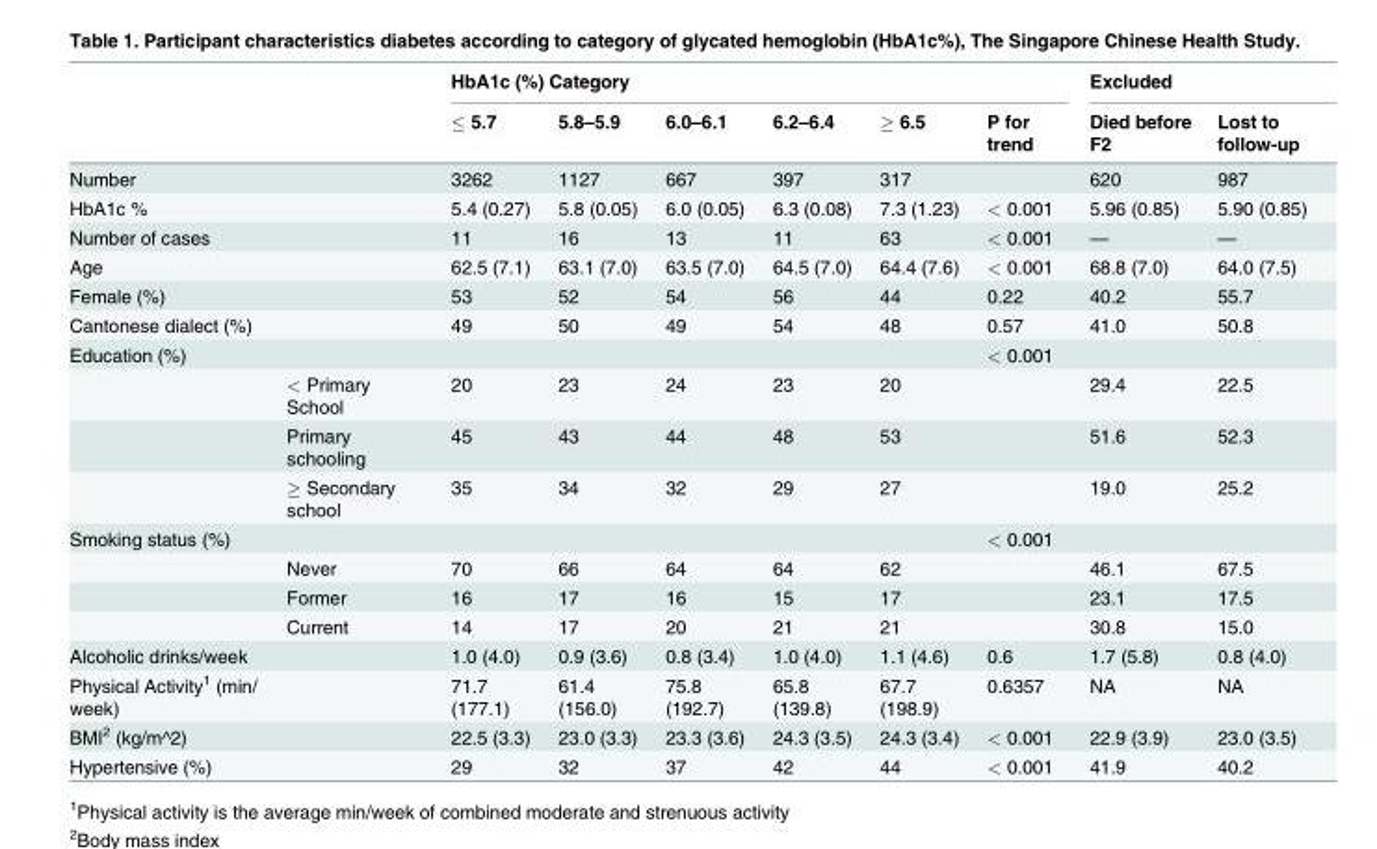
<table><thead><tr><td rowspan="2"></td><td rowspan="2"></td><td colspan="6">HbA1c (%) Category</td><td colspan="2">Excluded</td></tr><tr><td>≤ 5.7</td><td>5.8–5.9</td><td>6.0–6.1</td><td>6.2–6.4</td><td>≥ 6.5</td><td>P for trend</td><td>Died before F2</td><td>Lost to follow-up</td></tr></thead><tbody><tr><td>Number</td><td></td><td>3262</td><td>1127</td><td>667</td><td>397</td><td>317</td><td></td><td>620</td><td>987</td></tr><tr><td>HbA1c %</td><td></td><td>5.4 (0.27)</td><td>5.8 (0.05)</td><td>6.0 (0.05)</td><td>6.3 (0.08)</td><td>7.3 (1.23)</td><td>&lt; 0.001</td><td>5.96 (0.85)</td><td>5.90 (0.85)</td></tr><tr><td>Number of cases</td><td></td><td>11</td><td>16</td><td>13</td><td>11</td><td>63</td><td>&lt; 0.001</td><td>—</td><td>—</td></tr><tr><td>Age</td><td></td><td>62.5 (7.1)</td><td>63.1 (7.0)</td><td>63.5 (7.0)</td><td>64.5 (7.0)</td><td>64.4 (7.6)</td><td>&lt; 0.001</td><td>68.8 (7.0)</td><td>64.0 (7.5)</td></tr><tr><td>Female (%)</td><td></td><td>53</td><td>52</td><td>54</td><td>56</td><td>44</td><td>0.22</td><td>40.2</td><td>55.7</td></tr><tr><td>Cantonese dialect (%)</td><td></td><td>49</td><td>50</td><td>49</td><td>54</td><td>48</td><td>0.57</td><td>41.0</td><td>50.8</td></tr><tr><td rowspan="4">Education (%)</td><td></td><td></td><td></td><td></td><td></td><td></td><td>&lt; 0.001</td><td></td><td></td></tr><tr><td>&lt; Primary School</td><td>20</td><td>23</td><td>24</td><td>23</td><td>20</td><td></td><td>29.4</td><td>22.5</td></tr><tr><td>Primary schooling</td><td>45</td><td>43</td><td>44</td><td>48</td><td>53</td><td></td><td>51.6</td><td>52.3</td></tr><tr><td>≥ Secondary school</td><td>35</td><td>34</td><td>32</td><td>29</td><td>27</td><td></td><td>19.0</td><td>25.2</td></tr><tr><td rowspan="4">Smoking status (%)</td><td></td><td></td><td></td><td></td><td></td><td></td><td>&lt; 0.001</td><td></td><td></td></tr><tr><td>Never</td><td>70</td><td>66</td><td>64</td><td>64</td><td>62</td><td></td><td>46.1</td><td>67.5</td></tr><tr><td>Former</td><td>16</td><td>17</td><td>16</td><td>15</td><td>17</td><td></td><td>23.1</td><td>17.5</td></tr><tr><td>Current</td><td>14</td><td>17</td><td>20</td><td>21</td><td>21</td><td></td><td>30.8</td><td>15.0</td></tr><tr><td>Alcoholic drinks/week</td><td></td><td>1.0 (4.0)</td><td>0.9 (3.6)</td><td>0.8 (3.4)</td><td>1.0 (4.0)</td><td>1.1 (4.6)</td><td>0.6</td><td>1.7 (5.8)</td><td>0.8 (4.0)</td></tr><tr><td>Physical Activity<sup>1</sup> (min/ week)</td><td></td><td>71.7 (177.1)</td><td>61.4 (156.0)</td><td>75.8 (192.7)</td><td>65.8 (139.8)</td><td>67.7 (198.9)</td><td>0.6357</td><td>NA</td><td>NA</td></tr><tr><td>BMI<sup>2</sup> (kg/m^2)</td><td></td><td>22.5 (3.3)</td><td>23.0 (3.3)</td><td>23.3 (3.6)</td><td>24.3 (3.5)</td><td>24.3 (3.4)</td><td>&lt; 0.001</td><td>22.9 (3.9)</td><td>23.0 (3.5)</td></tr><tr><td>Hypertensive (%)</td><td></td><td>29</td><td>32</td><td>37</td><td>42</td><td>44</td><td>&lt; 0.001</td><td>41.9</td><td>40.2</td></tr></tbody></table>